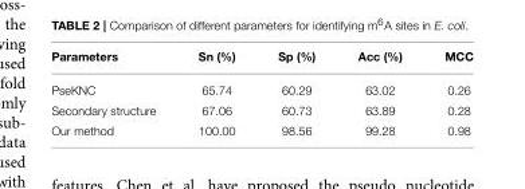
<table><thead><tr><td>Parameters</td><td>Sn (%)</td><td>Sp (%)</td><td>Acc (%)</td><td>MCC</td></tr></thead><tbody><tr><td>PseKNC</td><td>65.74</td><td>60.29</td><td>63.02</td><td>0.26</td></tr><tr><td>Secondary structure</td><td>67.06</td><td>60.73</td><td>63.89</td><td>0.28</td></tr><tr><td>Our method</td><td>100.00</td><td>98.56</td><td>99.28</td><td>0.98</td></tr></tbody></table>